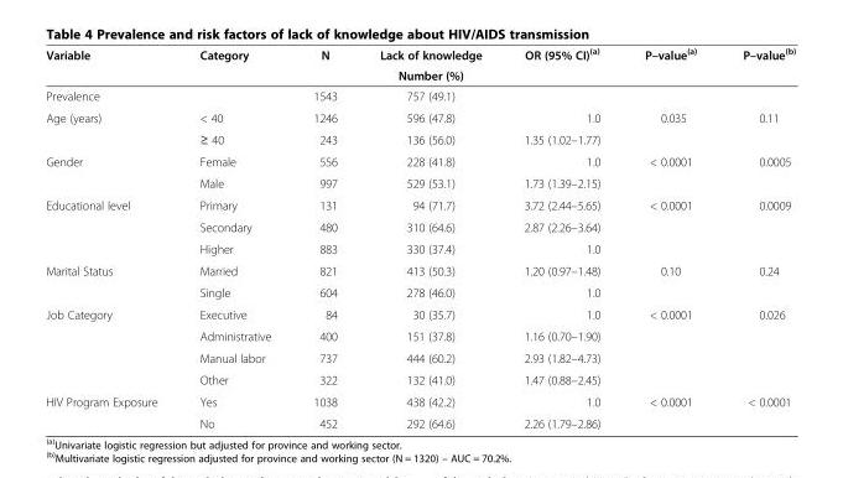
<table><thead><tr><td rowspan="2">Variable</td><td rowspan="2">Category</td><td rowspan="2">N</td><td rowspan="2">Lack of knowledge Number (%)</td><td rowspan="2">OR (95% CI)<sup>(a)</sup></td><td rowspan="2">P–value<sup>(a)</sup></td><td rowspan="2">P–value<sup>(b)</sup></td></tr><tr></tr></thead><tbody><tr><td>Prevalence</td><td></td><td>1543</td><td>757 (49.1)</td><td></td><td></td><td></td></tr><tr><td rowspan="2">Age (years)</td><td>&lt; 40</td><td>1246</td><td>596 (47.8)</td><td>1.0</td><td rowspan="2">0.035</td><td rowspan="2">0.11</td></tr><tr><td>≥ 40</td><td>243</td><td>136 (56.0)</td><td>1.35 (1.02–1.77)</td></tr><tr><td rowspan="2">Gender</td><td>Female</td><td>556</td><td>228 (41.8)</td><td>1.0</td><td rowspan="2">&lt; 0.0001</td><td rowspan="2">0.0005</td></tr><tr><td>Male</td><td>997</td><td>529 (53.1)</td><td>1.73 (1.39–2.15)</td></tr><tr><td rowspan="3">Educational level</td><td>Primary</td><td>131</td><td>94 (71.7)</td><td>3.72 (2.44–5.65)</td><td rowspan="3">&lt; 0.0001</td><td rowspan="3">0.0009</td></tr><tr><td>Secondary</td><td>480</td><td>310 (64.6)</td><td>2.87 (2.26–3.64)</td></tr><tr><td>Higher</td><td>883</td><td>330 (37.4)</td><td>1.0</td></tr><tr><td rowspan="2">Marital Status</td><td>Married</td><td>821</td><td>413 (50.3)</td><td>1.20 (0.97–1.48)</td><td rowspan="2">0.10</td><td rowspan="2">0.24</td></tr><tr><td>Single</td><td>604</td><td>278 (46.0)</td><td>1.0</td></tr><tr><td rowspan="4">Job Category</td><td>Executive</td><td>84</td><td>30 (35.7)</td><td>1.0</td><td rowspan="4">&lt; 0.0001</td><td rowspan="4">0.026</td></tr><tr><td>Administrative</td><td>400</td><td>151 (37.8)</td><td>1.16 (0.70–1.90)</td></tr><tr><td>Manual labor</td><td>737</td><td>444 (60.2)</td><td>2.93 (1.82–4.73)</td></tr><tr><td>Other</td><td>322</td><td>132 (41.0)</td><td>1.47 (0.88–2.45)</td></tr><tr><td rowspan="2">HIV Program Exposure</td><td>Yes</td><td>1038</td><td>438 (42.2)</td><td>1.0</td><td>&lt; 0.0001</td><td>&lt; 0.0001</td></tr><tr><td>No</td><td>452</td><td>292 (64.6)</td><td>2.26 (1.79–2.86)</td><td></td><td></td></tr></tbody></table>